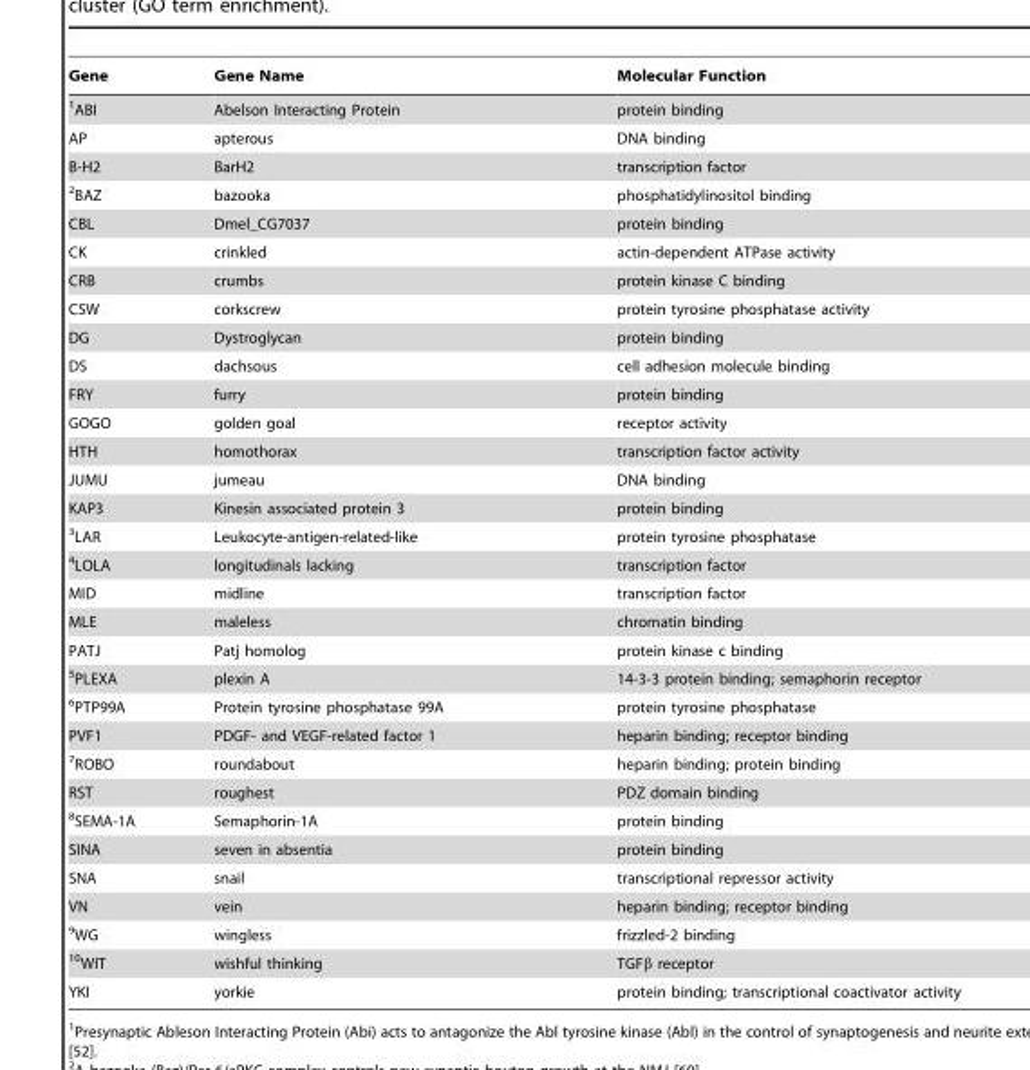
<table><thead><tr><td>Gene</td><td>Gene Name</td><td>Molecular Function</td></tr></thead><tbody><tr><td>1ABI</td><td>Abelson Interacting Protein</td><td>protein binding</td></tr><tr><td>AP</td><td>apterous</td><td>DNA binding</td></tr><tr><td>B-H2</td><td>BarH2</td><td>transcription factor</td></tr><tr><td>2BAZ</td><td>bazooka</td><td>phosphatidylinositol binding</td></tr><tr><td>CBL</td><td>Dmel_CG7037</td><td>protein binding</td></tr><tr><td>CK</td><td>crinkled</td><td>actin-dependent ATPase activity</td></tr><tr><td>CRB</td><td>crumbs</td><td>protein kinase C binding</td></tr><tr><td>CSW</td><td>corkscrew</td><td>protein tyrosine phosphatase activity</td></tr><tr><td>DG</td><td>Dystroglycan</td><td>protein binding</td></tr><tr><td>DS</td><td>dachsous</td><td>cell adhesion molecule binding</td></tr><tr><td>FRY</td><td>furry</td><td>protein binding</td></tr><tr><td>GOGO</td><td>golden goal</td><td>receptor activity</td></tr><tr><td>HTH</td><td>homothorax</td><td>transcription factor activity</td></tr><tr><td>JUMU</td><td>jumeau</td><td>DNA binding</td></tr><tr><td>KAP3</td><td>Kinesin associated protein 3</td><td>protein binding</td></tr><tr><td>3LAR</td><td>Leukocyte-antigen-related-like</td><td>protein tyrosine phosphatase</td></tr><tr><td>4LOLA</td><td>longitudinals lacking</td><td>transcription factor</td></tr><tr><td>MID</td><td>midline</td><td>transcription factor</td></tr><tr><td>MLE</td><td>maleless</td><td>chromatin binding</td></tr><tr><td>PATJ</td><td>Patj homolog</td><td>protein kinase c binding</td></tr><tr><td>5PLEXA</td><td>plexin A</td><td>14-3-3 protein binding; semaphorin receptor</td></tr><tr><td>6PTP99A</td><td>Protein tyrosine phosphatase 99A</td><td>protein tyrosine phosphatase</td></tr><tr><td>PVF1</td><td>PDGF- and VEGF-related factor 1</td><td>heparin binding; receptor binding</td></tr><tr><td>7ROBO</td><td>roundabout</td><td>heparin binding; protein binding</td></tr><tr><td>RST</td><td>roughest</td><td>PDZ domain binding</td></tr><tr><td>8SEMA-1A</td><td>Semaphorin-1A</td><td>protein binding</td></tr><tr><td>SINA</td><td>seven in absentia</td><td>protein binding</td></tr><tr><td>SNA</td><td>snail</td><td>transcriptional repressor activity</td></tr><tr><td>VN</td><td>vein</td><td>heparin binding; receptor binding</td></tr><tr><td>9WG</td><td>wingless</td><td>frizzled-2 binding</td></tr><tr><td>10WIT</td><td>wishful thinking</td><td>TGFβ receptor</td></tr><tr><td>YKI</td><td>yorkie</td><td>protein binding; transcriptional coactivator activity</td></tr></tbody></table>